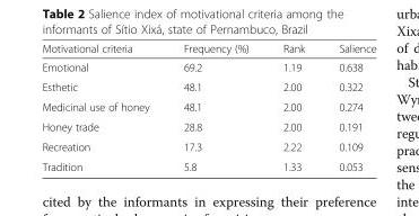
<table><thead><tr><td>Motivational criteria</td><td>Frequency (%)</td><td>Rank</td><td>Salience</td></tr></thead><tbody><tr><td>Emotional</td><td>69.2</td><td>1.19</td><td>0.638</td></tr><tr><td>Esthetic</td><td>48.1</td><td>2.00</td><td>0.322</td></tr><tr><td>Medicinal use of honey</td><td>48.1</td><td>2.00</td><td>0.274</td></tr><tr><td>Honey trade</td><td>28.8</td><td>2.00</td><td>0.191</td></tr><tr><td>Recreation</td><td>17.3</td><td>2.22</td><td>0.109</td></tr><tr><td>Tradition</td><td>5.8</td><td>1.33</td><td>0.053</td></tr></tbody></table>